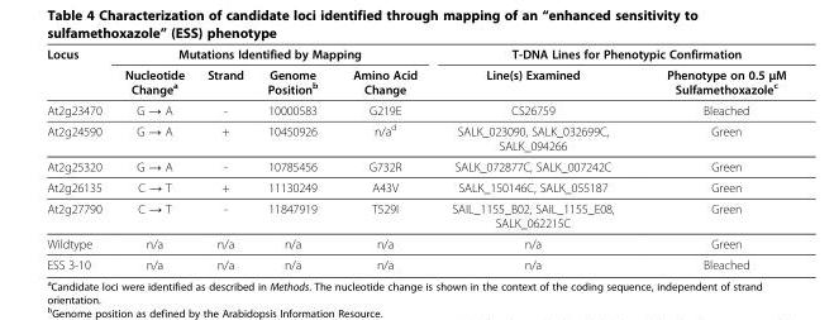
<table><thead><tr><td rowspan="2">Locus</td><td colspan="4">Mutations Identified by Mapping</td><td colspan="2">T-DNA Lines for Phenotypic Confirmation</td></tr><tr><td>Nucleotide Change<sup>a</sup></td><td>Strand</td><td>Genome Position<sup>b</sup></td><td>Amino Acid Change</td><td>Line(s) Examined</td><td>Phenotype on 0.5 μM Sulfamethoxazole<sup>c</sup></td></tr></thead><tbody><tr><td>At2g23470</td><td>G → A</td><td>-</td><td>10000583</td><td>G219E</td><td>CS26759</td><td>Bleached</td></tr><tr><td>At2g24590</td><td>G → A</td><td>+</td><td>10450926</td><td>n/a<sup>d</sup></td><td>SALK_023090, SALK_032699C, SALK_094266</td><td>Green</td></tr><tr><td>At2g25320</td><td>G → A</td><td>-</td><td>10785456</td><td>G732R</td><td>SALK_072877C, SALK_007242C</td><td>Green</td></tr><tr><td>At2g26135</td><td>C → T</td><td>+</td><td>11130249</td><td>A43V</td><td>SALK_150146C, SALK_055187</td><td>Green</td></tr><tr><td>At2g27790</td><td>C → T</td><td>-</td><td>11847919</td><td>T529I</td><td>SAIL_1155_B02, SAIL_1155_E08, SALK_062215C</td><td>Green</td></tr><tr><td>Wildtype</td><td>n/a</td><td>n/a</td><td>n/a</td><td>n/a</td><td>n/a</td><td>Green</td></tr><tr><td>ESS 3-10</td><td>n/a</td><td>n/a</td><td>n/a</td><td>n/a</td><td>n/a</td><td>Bleached</td></tr></tbody></table>